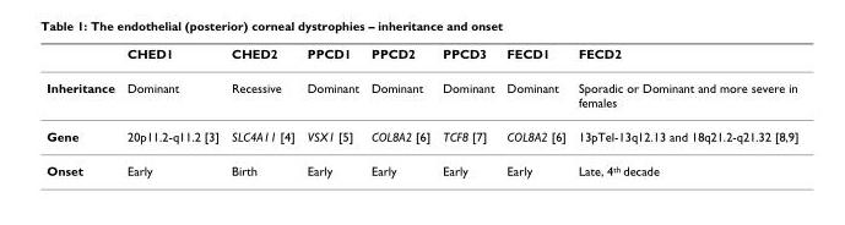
<table><thead><tr><td></td><td>CHED1</td><td>CHED2</td><td>PPCD1</td><td>PPCD2</td><td>PPCD3</td><td>FECD1</td><td>FECD2</td></tr></thead><tbody><tr><td>Inheritance</td><td>Dominant</td><td>Recessive</td><td>Dominant</td><td>Dominant</td><td>Dominant</td><td>Dominant</td><td>Sporadic or Dominant and more severe in females</td></tr><tr><td>Gene</td><td>20p11.2-q11.2 [3]</td><td>SLC4A11 [4]</td><td>VSX1 [5]</td><td>COL8A2 [6]</td><td>TCF8 [7]</td><td>COL8A2 [6]</td><td>13pTel-13q12.13 and 18q21.2-q21.32 [8,9]</td></tr><tr><td>Onset</td><td>Early</td><td>Birth</td><td>Early</td><td>Early</td><td>Early</td><td>Early</td><td>Late, 4<sup>th</sup> decade</td></tr></tbody></table>